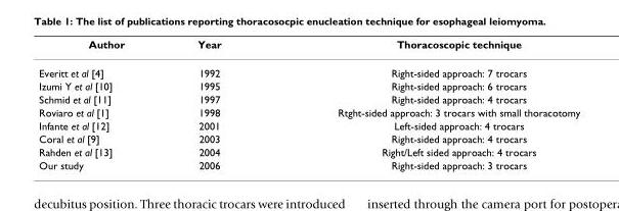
<table><thead><tr><td>Author</td><td>Year</td><td>Thoracoscopic technique</td></tr></thead><tbody><tr><td>Everitt et al [4]</td><td>1992</td><td>Right-sided approach: 7 trocars</td></tr><tr><td>Izumi Y et al [10]</td><td>1995</td><td>Right-sided approach: 6 trocars</td></tr><tr><td>Schmid et al [11]</td><td>1997</td><td>Right-sided approach: 4 trocars</td></tr><tr><td>Roviaro et al [1]</td><td>1998</td><td>Rtght-sided approach: 3 trocars with small thoracotomy</td></tr><tr><td>Infante et al [12]</td><td>2001</td><td>Left-sided approach: 4 trocars</td></tr><tr><td>Coral et al [9]</td><td>2003</td><td>Right-sided approach: 4 trocars</td></tr><tr><td>Rahden et al [13]</td><td>2004</td><td>Right/Left sided approach: 4 trocars</td></tr><tr><td>Our study</td><td>2006</td><td>Right-sided approach: 3 trocars</td></tr></tbody></table>